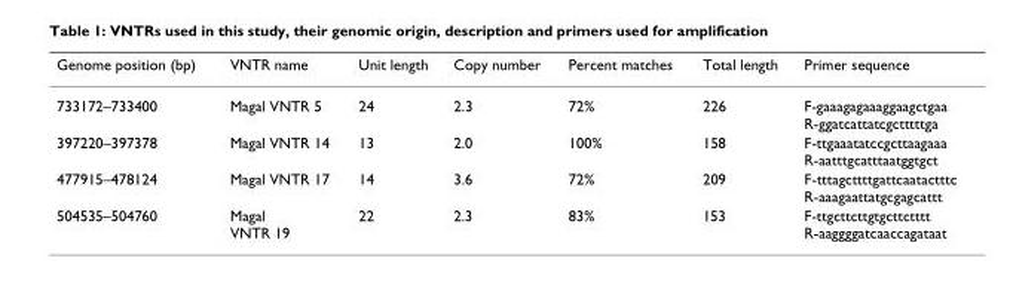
<table><thead><tr><td>Genome position (bp)</td><td>VNTR name</td><td>Unit length</td><td>Copy number</td><td>Percent matches</td><td>Total length</td><td>Primer sequence</td></tr></thead><tbody><tr><td>733172–733400</td><td>Magal VNTR 5</td><td>24</td><td>2.3</td><td>72%</td><td>226</td><td>F-gaaagagaaaggaagctgaa R-ggatcattatcgctttttga</td></tr><tr><td>397220–397378</td><td>Magal VNTR 14</td><td>13</td><td>2.0</td><td>100%</td><td>158</td><td>F-ttgaaatatccgcttaagaaa R-aatttgcatttaatggtgct</td></tr><tr><td>477915–478124</td><td>Magal VNTR 17</td><td>14</td><td>3.6</td><td>72%</td><td>209</td><td>F-tttagcttttgattcaatactttc R-aaagaattatgcgagcattt</td></tr><tr><td>504535–504760</td><td>Magal VNTR 19</td><td>22</td><td>2.3</td><td>83%</td><td>153</td><td>F-ttgcttcttgtgcttctttt R-aaggggatcaaccagataat</td></tr></tbody></table>